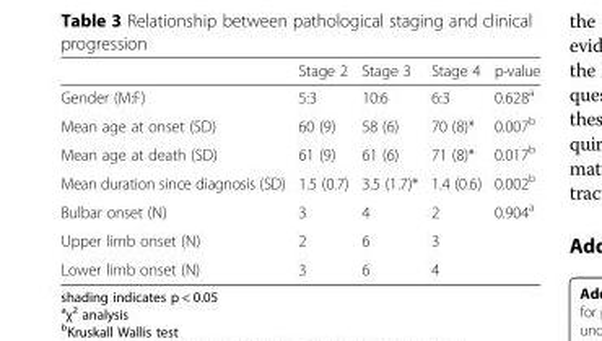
<table><thead><tr><td></td><td>Stage 2</td><td>Stage 3</td><td>Stage 4</td><td>p-value</td></tr></thead><tbody><tr><td>Gender (M:F)</td><td>5:3</td><td>10:6</td><td>6:3</td><td>0.628<sup>a</sup></td></tr><tr><td>Mean age at onset (SD)</td><td>60 (9)</td><td>58 (6)</td><td>70 (8)*</td><td>0.007<sup>b</sup></td></tr><tr><td>Mean age at death (SD)</td><td>61 (9)</td><td>61 (6)</td><td>71 (8)*</td><td>0.017<sup>b</sup></td></tr><tr><td>Mean duration since diagnosis (SD)</td><td>1.5 (0.7)</td><td>3.5 (1.7)*</td><td>1.4 (0.6)</td><td>0.002<sup>b</sup></td></tr><tr><td>Bulbar onset (N)</td><td>3</td><td>4</td><td>2</td><td rowspan="3">0.904<sup>a</sup></td></tr><tr><td>Upper limb onset (N)</td><td>2</td><td>6</td><td>3</td></tr><tr><td>Lower limb onset (N)</td><td>3</td><td>6</td><td>4</td></tr></tbody></table>